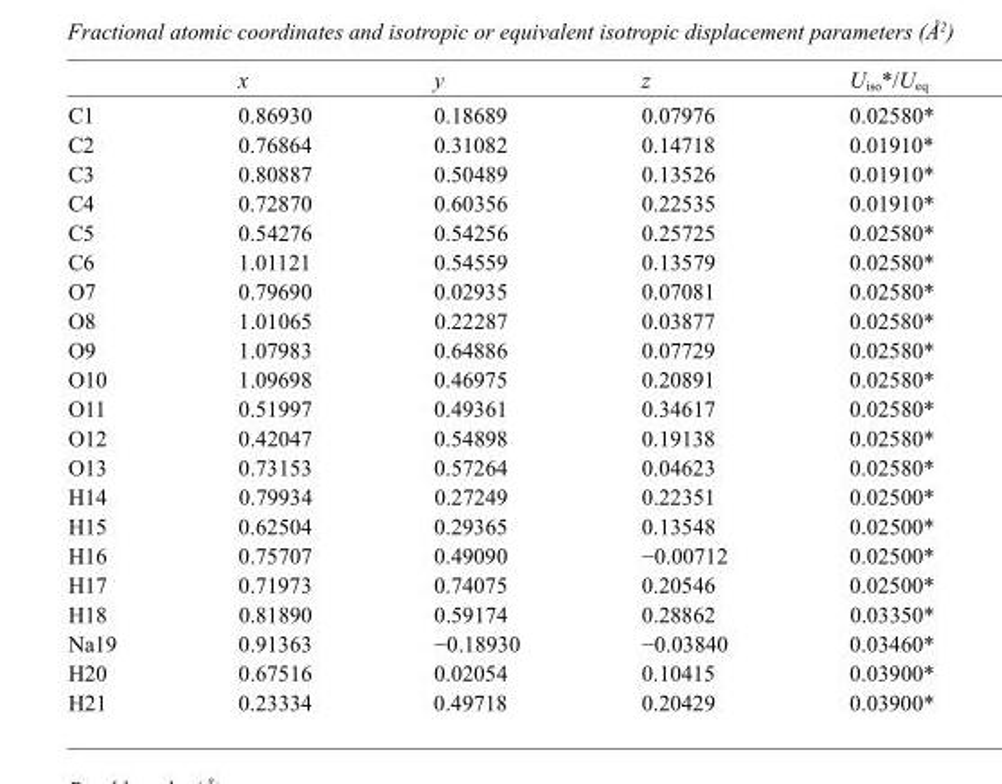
<table><thead><tr><td></td><td>x</td><td>y</td><td>z</td><td>U<sub>iso</sub>*/U<sub>eq</sub></td></tr></thead><tbody><tr><td>C1</td><td>0.86930</td><td>0.18689</td><td>0.07976</td><td>0.02580*</td></tr><tr><td>C2</td><td>0.76864</td><td>0.31082</td><td>0.14718</td><td>0.01910*</td></tr><tr><td>C3</td><td>0.80887</td><td>0.50489</td><td>0.13526</td><td>0.01910*</td></tr><tr><td>C4</td><td>0.72870</td><td>0.60356</td><td>0.22535</td><td>0.01910*</td></tr><tr><td>C5</td><td>0.54276</td><td>0.54256</td><td>0.25725</td><td>0.02580*</td></tr><tr><td>C6</td><td>1.01121</td><td>0.54559</td><td>0.13579</td><td>0.02580*</td></tr><tr><td>O7</td><td>0.79690</td><td>0.02935</td><td>0.07081</td><td>0.02580*</td></tr><tr><td>O8</td><td>1.01065</td><td>0.22287</td><td>0.03877</td><td>0.02580*</td></tr><tr><td>O9</td><td>1.07983</td><td>0.64886</td><td>0.07729</td><td>0.02580*</td></tr><tr><td>O10</td><td>1.09698</td><td>0.46975</td><td>0.20891</td><td>0.02580*</td></tr><tr><td>O11</td><td>0.51997</td><td>0.49361</td><td>0.34617</td><td>0.02580*</td></tr><tr><td>O12</td><td>0.42047</td><td>0.54898</td><td>0.19138</td><td>0.02580*</td></tr><tr><td>O13</td><td>0.73153</td><td>0.57264</td><td>0.04623</td><td>0.02580*</td></tr><tr><td>H14</td><td>0.79934</td><td>0.27249</td><td>0.22351</td><td>0.02500*</td></tr><tr><td>H15</td><td>0.62504</td><td>0.29365</td><td>0.13548</td><td>0.02500*</td></tr><tr><td>H16</td><td>0.75707</td><td>0.49090</td><td>−0.00712</td><td>0.02500*</td></tr><tr><td>H17</td><td>0.71973</td><td>0.74075</td><td>0.20546</td><td>0.02500*</td></tr><tr><td>H18</td><td>0.81890</td><td>0.59174</td><td>0.28862</td><td>0.03350*</td></tr><tr><td>Na19</td><td>0.91363</td><td>−0.18930</td><td>−0.03840</td><td>0.03460*</td></tr><tr><td>H20</td><td>0.67516</td><td>0.02054</td><td>0.10415</td><td>0.03900*</td></tr><tr><td>H21</td><td>0.23334</td><td>0.49718</td><td>0.20429</td><td>0.03900*</td></tr></tbody></table>